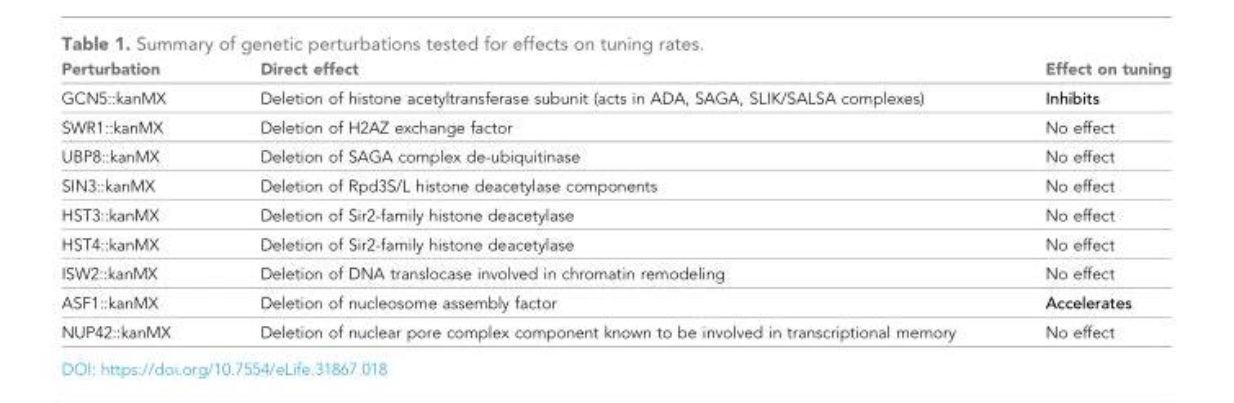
<table><thead><tr><td>Perturbation</td><td>Direct effect</td><td>Effect on tuning</td></tr></thead><tbody><tr><td>GCN5::kanMX</td><td>Deletion of histone acetyltransferase subunit (acts in ADA, SAGA, SLIK/SALSA complexes)</td><td>Inhibits</td></tr><tr><td>SWR1::kanMX</td><td>Deletion of H2AZ exchange factor</td><td>No effect</td></tr><tr><td>UBP8::kanMX</td><td>Deletion of SAGA complex de-ubiquitinase</td><td>No effect</td></tr><tr><td>SIN3::kanMX</td><td>Deletion of Rpd3S/L histone deacetylase components</td><td>No effect</td></tr><tr><td>HST3::kanMX</td><td>Deletion of Sir2-family histone deacetylase</td><td>No effect</td></tr><tr><td>HST4::kanMX</td><td>Deletion of Sir2-family histone deacetylase</td><td>No effect</td></tr><tr><td>ISW2::kanMX</td><td>Deletion of DNA translocase involved in chromatin remodeling</td><td>No effect</td></tr><tr><td>ASF1::kanMX</td><td>Deletion of nucleosome assembly factor</td><td>Accelerates</td></tr><tr><td>NUP42::kanMX</td><td>Deletion of nuclear pore complex component known to be involved in transcriptional memory</td><td>No effect</td></tr></tbody></table>